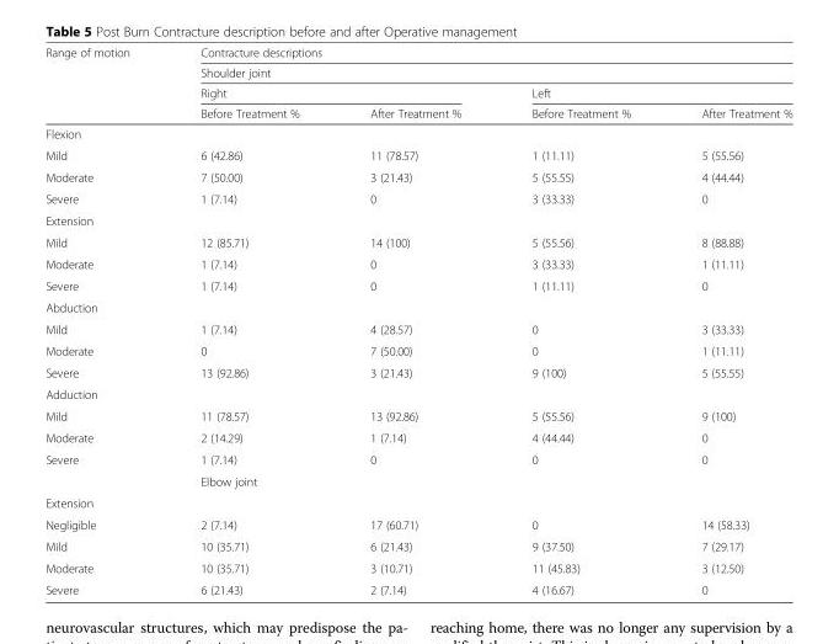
<table><thead><tr><td rowspan="4">Range of motion</td><td rowspan="2" colspan="4">Contracture descriptions Shoulder joint</td></tr><tr></tr><tr><td colspan="2">Right</td><td colspan="2">Left</td></tr><tr><td>Before Treatment %</td><td>After Treatment %</td><td>Before Treatment %</td><td>After Treatment %</td></tr></thead><tbody><tr><td colspan="5">Flexion</td></tr><tr><td>Mild</td><td>6 (42.86)</td><td>11 (78.57)</td><td>1 (11.11)</td><td>5 (55.56)</td></tr><tr><td>Moderate</td><td>7 (50.00)</td><td>3 (21.43)</td><td>5 (55.55)</td><td>4 (44.44)</td></tr><tr><td>Severe</td><td>1 (7.14)</td><td>0</td><td>3 (33.33)</td><td>0</td></tr><tr><td colspan="5">Extension</td></tr><tr><td>Mild</td><td>12 (85.71)</td><td>14 (100)</td><td>5 (55.56)</td><td>8 (88.88)</td></tr><tr><td>Moderate</td><td>1 (7.14)</td><td>0</td><td>3 (33.33)</td><td>1 (11.11)</td></tr><tr><td>Severe</td><td>1 (7.14)</td><td>0</td><td>1 (11.11)</td><td>0</td></tr><tr><td colspan="5">Abduction</td></tr><tr><td>Mild</td><td>1 (7.14)</td><td>4 (28.57)</td><td>0</td><td>3 (33.33)</td></tr><tr><td>Moderate</td><td>0</td><td>7 (50.00)</td><td>0</td><td>1 (11.11)</td></tr><tr><td>Severe</td><td>13 (92.86)</td><td>3 (21.43)</td><td>9 (100)</td><td>5 (55.55)</td></tr><tr><td colspan="5">Adduction</td></tr><tr><td>Mild</td><td>11 (78.57)</td><td>13 (92.86)</td><td>5 (55.56)</td><td>9 (100)</td></tr><tr><td>Moderate</td><td>2 (14.29)</td><td>1 (7.14)</td><td>4 (44.44)</td><td>0</td></tr><tr><td rowspan="2">Severe</td><td>1 (7.14)</td><td>0</td><td>0</td><td>0</td></tr><tr><td colspan="4">Elbow joint</td></tr><tr><td colspan="5">Extension</td></tr><tr><td>Negligible</td><td>2 (7.14)</td><td>17 (60.71)</td><td>0</td><td>14 (58.33)</td></tr><tr><td>Mild</td><td>10 (35.71)</td><td>6 (21.43)</td><td>9 (37.50)</td><td>7 (29.17)</td></tr><tr><td>Moderate</td><td>10 (35.71)</td><td>3 (10.71)</td><td>11 (45.83)</td><td>3 (12.50)</td></tr><tr><td>Severe</td><td>6 (21.43)</td><td>2 (7.14)</td><td>4 (16.67)</td><td>0</td></tr></tbody></table>